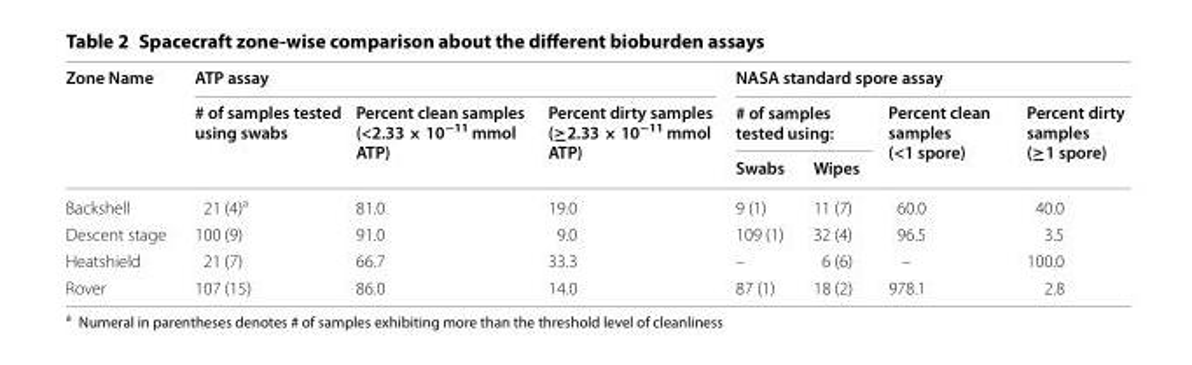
<table><thead><tr><td rowspan="3">Zone Name</td><td colspan="3">ATP assay</td><td colspan="4">NASA standard spore assay</td></tr><tr><td rowspan="2"># of samples tested using swabs</td><td rowspan="2">Percent clean samples (&lt;2.33 × 10<sup>−11</sup> mmol ATP)</td><td rowspan="2">Percent dirty samples (≥2.33 × 10<sup>−11</sup> mmol ATP)</td><td colspan="2"># of samples tested using:</td><td rowspan="2">Percent clean samples (&lt;1 spore)</td><td rowspan="2">Percent dirty samples (≥1 spore)</td></tr><tr><td>Swabs</td><td>Wipes</td></tr></thead><tbody><tr><td>Backshell</td><td>21 (4)<sup>a</sup></td><td>81.0</td><td>19.0</td><td>9 (1)</td><td>11 (7)</td><td>60.0</td><td>40.0</td></tr><tr><td>Descent stage</td><td>100 (9)</td><td>91.0</td><td>9.0</td><td>109 (1)</td><td>32 (4)</td><td>96.5</td><td>3.5</td></tr><tr><td>Heatshield</td><td>21 (7)</td><td>66.7</td><td>33.3</td><td>–</td><td>6 (6)</td><td>–</td><td>100.0</td></tr><tr><td>Rover</td><td>107 (15)</td><td>86.0</td><td>14.0</td><td>87 (1)</td><td>18 (2)</td><td>978.1</td><td>2.8</td></tr></tbody></table>